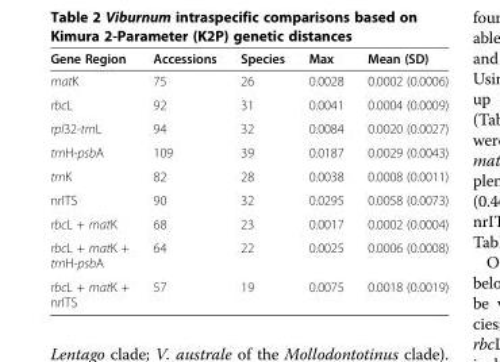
<table><thead><tr><td>Gene Region</td><td>Accessions</td><td>Species</td><td>Max</td><td>Mean (SD)</td></tr></thead><tbody><tr><td>matK</td><td>75</td><td>26</td><td>0.0028</td><td>0.0002 (0.0006)</td></tr><tr><td>rbcL</td><td>92</td><td>31</td><td>0.0041</td><td>0.0004 (0.0009)</td></tr><tr><td>rpl32-trnL</td><td>94</td><td>32</td><td>0.0084</td><td>0.0020 (0.0027)</td></tr><tr><td>trnH-psbA</td><td>109</td><td>39</td><td>0.0187</td><td>0.0029 (0.0043)</td></tr><tr><td>trnK</td><td>82</td><td>28</td><td>0.0038</td><td>0.0008 (0.0011)</td></tr><tr><td>nrITS</td><td>90</td><td>32</td><td>0.0295</td><td>0.0058 (0.0073)</td></tr><tr><td>rbcL + matK</td><td>68</td><td>23</td><td>0.0017</td><td>0.0002 (0.0004)</td></tr><tr><td>rbcL + matK + trnH-psbA</td><td>64</td><td>22</td><td>0.0025</td><td>0.0006 (0.0008)</td></tr><tr><td>rbcL + matK + nrITS</td><td>57</td><td>19</td><td>0.0075</td><td>0.0018 (0.0019)</td></tr></tbody></table>